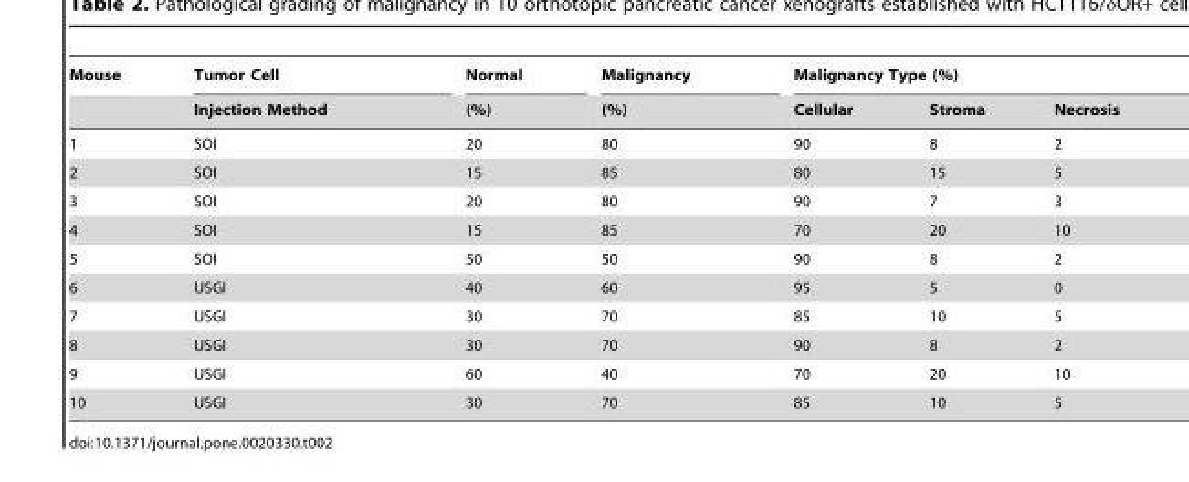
<table><thead><tr><td rowspan="2">Mouse</td><td rowspan="2">Tumor Cell Injection Method</td><td rowspan="2">Normal (%)</td><td rowspan="2">Malignancy (%)</td><td colspan="3">Malignancy Type (%)</td></tr><tr><td>Cellular</td><td>Stroma</td><td>Necrosis</td></tr></thead><tbody><tr><td>1</td><td>SOI</td><td>20</td><td>80</td><td>90</td><td>8</td><td>2</td></tr><tr><td>2</td><td>SOI</td><td>15</td><td>85</td><td>80</td><td>15</td><td>5</td></tr><tr><td>3</td><td>SOI</td><td>20</td><td>80</td><td>90</td><td>7</td><td>3</td></tr><tr><td>4</td><td>SOI</td><td>15</td><td>85</td><td>70</td><td>20</td><td>10</td></tr><tr><td>5</td><td>SOI</td><td>50</td><td>50</td><td>90</td><td>8</td><td>2</td></tr><tr><td>6</td><td>USGI</td><td>40</td><td>60</td><td>95</td><td>5</td><td>0</td></tr><tr><td>7</td><td>USGI</td><td>30</td><td>70</td><td>85</td><td>10</td><td>5</td></tr><tr><td>8</td><td>USGI</td><td>30</td><td>70</td><td>90</td><td>8</td><td>2</td></tr><tr><td>9</td><td>USGI</td><td>60</td><td>40</td><td>70</td><td>20</td><td>10</td></tr><tr><td>10</td><td>USGI</td><td>30</td><td>70</td><td>85</td><td>10</td><td>5</td></tr></tbody></table>